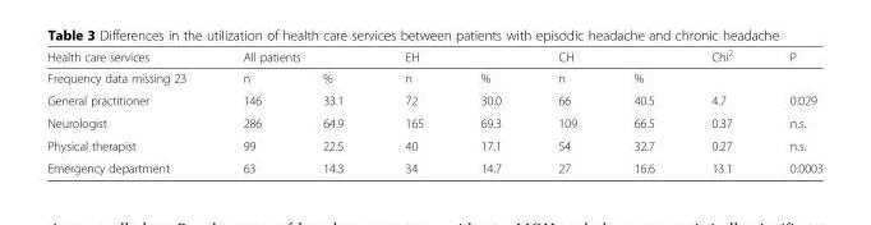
<table><thead><tr><td rowspan="2">Health care services Frequency data missing 23</td><td colspan="2">All patients</td><td colspan="2">EH</td><td colspan="2">CH</td><td rowspan="2">Chi<sup>2</sup></td><td rowspan="2">P</td></tr><tr><td>n</td><td>%</td><td>n</td><td>%</td><td>n</td><td>%</td></tr></thead><tbody><tr><td>General practitioner</td><td>146</td><td>33.1</td><td>72</td><td>30.0</td><td>66</td><td>40.5</td><td>4.7</td><td>0.029</td></tr><tr><td>Neurologist</td><td>286</td><td>64.9</td><td>165</td><td>69.3</td><td>109</td><td>66.5</td><td>0.37</td><td>n.s.</td></tr><tr><td>Physical therapist</td><td>99</td><td>22.5</td><td>40</td><td>17.1</td><td>54</td><td>32.7</td><td>0.27</td><td>n.s.</td></tr><tr><td>Emergency department</td><td>63</td><td>14.3</td><td>34</td><td>14.7</td><td>27</td><td>16.6</td><td>13.1</td><td>0.0003</td></tr></tbody></table>